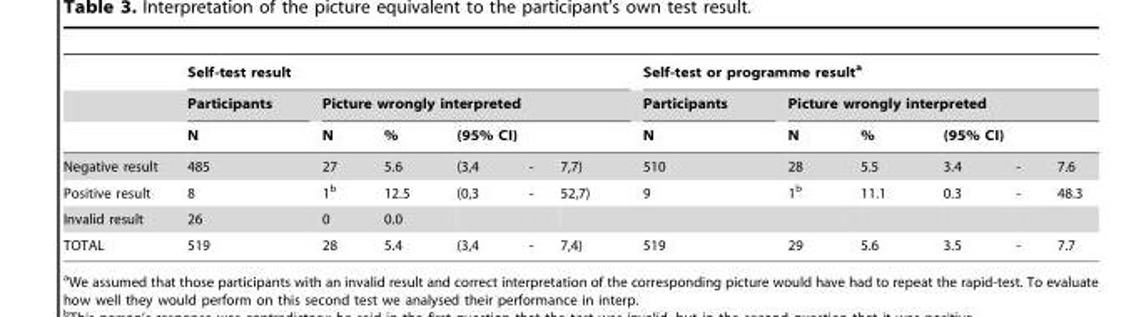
<table><thead><tr><td rowspan="4">Negative result</td><td colspan="6">Self-test result</td><td colspan="6">Self-test or programme result<sup>a</sup></td></tr><tr><td rowspan="3">Participants N 485</td><td colspan="5">Picture wrongly interpreted</td><td rowspan="3">Participants N 510</td><td colspan="5">Picture wrongly interpreted</td></tr><tr><td rowspan="2">N 27</td><td rowspan="2">% 5.6</td><td colspan="3">(95% CI)</td><td rowspan="2">N 28</td><td rowspan="2">% 5.5</td><td colspan="3">(95% CI)</td></tr><tr><td>(3,4</td><td>-</td><td>7,7)</td><td>3.4</td><td>-</td><td>7.6</td></tr></thead><tbody><tr><td>Positive result</td><td>8</td><td>1<sup>b</sup></td><td>12.5</td><td>(0,3</td><td>-</td><td>52,7)</td><td>9</td><td>1<sup>b</sup></td><td>11.1</td><td>0.3</td><td>-</td><td>48.3</td></tr><tr><td>Invalid result</td><td>26</td><td>0</td><td>0.0</td><td></td><td></td><td></td><td></td><td></td><td></td><td></td><td></td><td></td></tr><tr><td>TOTAL</td><td>519</td><td>28</td><td>5.4</td><td>(3,4</td><td>-</td><td>7,4)</td><td>519</td><td>29</td><td>5.6</td><td>3.5</td><td>-</td><td>7.7</td></tr></tbody></table>